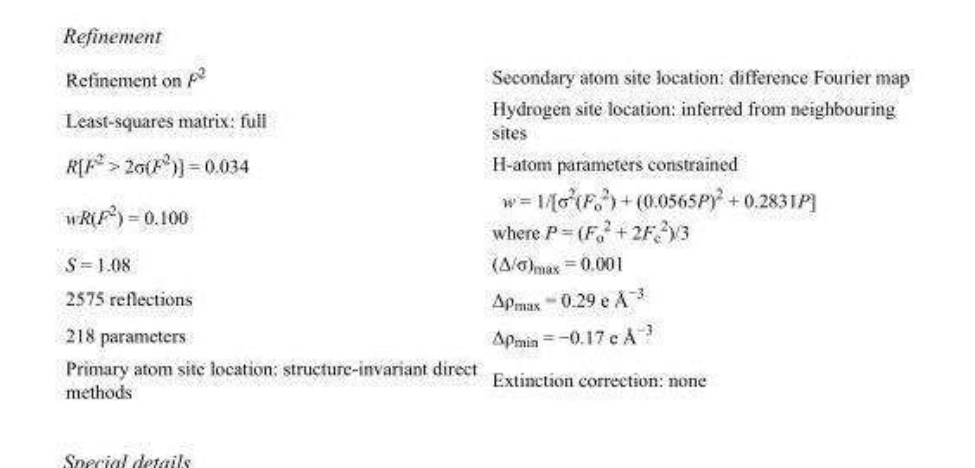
<table><tbody><tr><td>Refinement on F<sup>2</sup></td><td>Secondary atom site location: difference Fourier map</td></tr><tr><td>Least-squares matrix: full</td><td>Hydrogen site location: inferred from neighbouring sites</td></tr><tr><td>R[F<sup>2</sup> &gt; 2σ(F<sup>2</sup>)] = 0.034</td><td>H-atom parameters constrained</td></tr><tr><td>wR(F<sup>2</sup>) = 0.100</td><td>w = 1/[σ<sup>2</sup>(F<sub>o</sub> <sup>2</sup>) + (0.0565P)<sup>2</sup> + 0.2831P] where P = (F<sub>o</sub> <sup>2</sup> + 2F<sub>c</sub> <sup>2</sup>)/3</td></tr><tr><td>S = 1.08</td><td>(Δ/σ)<sub>max</sub> = 0.001</td></tr><tr><td>2575 reflections</td><td>Δρ<sub>max</sub> = 0.29 e Å<sup>−3</sup></td></tr><tr><td>218 parameters</td><td>Δρ<sub>min</sub> = −0.17 e Å<sup>−3</sup></td></tr><tr><td>Primary atom site location: structure-invariant direct methods</td><td>Extinction correction: none</td></tr></tbody></table>